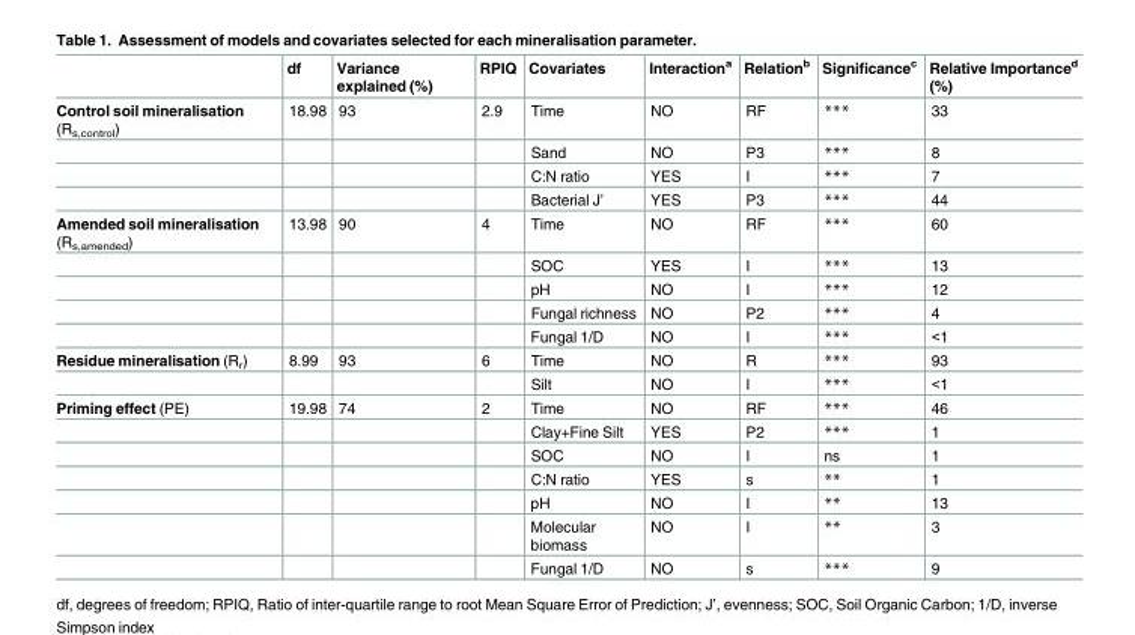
<table><thead><tr><td></td><td>df</td><td>Variance explained (%)</td><td>RPIQ</td><td>Covariates</td><td>Interaction<sup>a</sup></td><td>Relation<sup>b</sup></td><td>Significance<sup>c</sup></td><td>Relative Importance<sup>d</sup> (%)</td></tr></thead><tbody><tr><td rowspan="4">Control soil mineralisation (R<sub>s,control</sub>)</td><td>18.98</td><td>93</td><td>2.9</td><td>Time</td><td>NO</td><td>RF</td><td>***</td><td>33</td></tr><tr><td></td><td></td><td></td><td>Sand</td><td>NO</td><td>P3</td><td>***</td><td>8</td></tr><tr><td></td><td></td><td></td><td>C:N ratio</td><td>YES</td><td>I</td><td>***</td><td>7</td></tr><tr><td></td><td></td><td></td><td>Bacterial J’</td><td>YES</td><td>P3</td><td>***</td><td>44</td></tr><tr><td rowspan="5">Amended soil mineralisation (R<sub>s,amended</sub>)</td><td>13.98</td><td>90</td><td>4</td><td>Time</td><td>NO</td><td>RF</td><td>***</td><td>60</td></tr><tr><td></td><td></td><td></td><td>SOC</td><td>YES</td><td>I</td><td>***</td><td>13</td></tr><tr><td></td><td></td><td></td><td>pH</td><td>NO</td><td>I</td><td>***</td><td>12</td></tr><tr><td></td><td></td><td></td><td>Fungal richness</td><td>NO</td><td>P2</td><td>***</td><td>4</td></tr><tr><td></td><td></td><td></td><td>Fungal 1/D</td><td>NO</td><td>I</td><td>***</td><td>&lt;1</td></tr><tr><td rowspan="2">Residue mineralisation (R<sub>r</sub>)</td><td>8.99</td><td>93</td><td>6</td><td>Time</td><td>NO</td><td>R</td><td>***</td><td>93</td></tr><tr><td></td><td></td><td></td><td>Silt</td><td>NO</td><td>I</td><td>***</td><td>&lt;1</td></tr><tr><td rowspan="7">Priming effect (PE)</td><td>19.98</td><td>74</td><td>2</td><td>Time</td><td>NO</td><td>RF</td><td>***</td><td>46</td></tr><tr><td></td><td></td><td></td><td>Clay+Fine Silt</td><td>YES</td><td>P2</td><td>***</td><td>1</td></tr><tr><td></td><td></td><td></td><td>SOC</td><td>NO</td><td>I</td><td>ns</td><td>1</td></tr><tr><td></td><td></td><td></td><td>C:N ratio</td><td>YES</td><td>s</td><td>**</td><td>1</td></tr><tr><td></td><td></td><td></td><td>pH</td><td>NO</td><td>I</td><td>**</td><td>13</td></tr><tr><td></td><td></td><td></td><td>Molecular biomass</td><td>NO</td><td>I</td><td>**</td><td>3</td></tr><tr><td></td><td></td><td></td><td>Fungal 1/D</td><td>NO</td><td>s</td><td>***</td><td>9</td></tr></tbody></table>